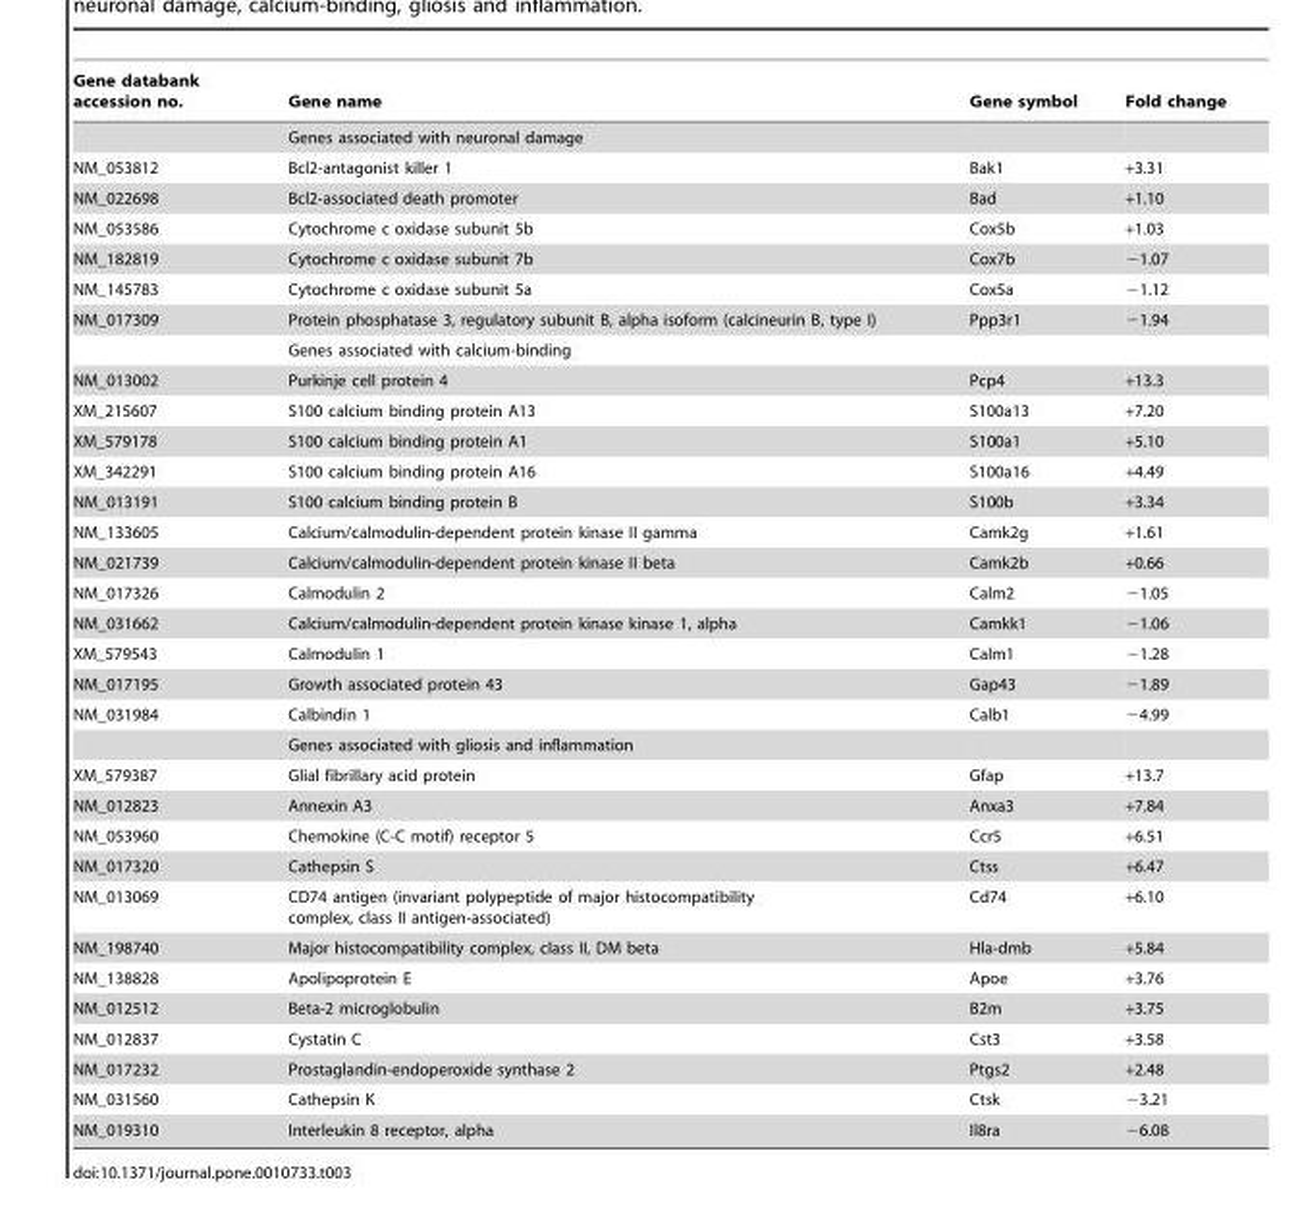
<table><thead><tr><td>Gene databank accession no.</td><td>Gene name</td><td>Gene symbol</td><td>Fold change</td></tr></thead><tbody><tr><td></td><td>Genes associated with neuronal damage</td><td></td><td></td></tr><tr><td>NM_053812</td><td>Bcl2-antagonist killer 1</td><td>Bak1</td><td>+3.31</td></tr><tr><td>NM_022698</td><td>Bcl2-associated death promoter</td><td>Bad</td><td>+1.10</td></tr><tr><td>NM_053586</td><td>Cytochrome c oxidase subunit 5b</td><td>Cox5b</td><td>+1.03</td></tr><tr><td>NM_182819</td><td>Cytochrome c oxidase subunit 7b</td><td>Cox7b</td><td>−1.07</td></tr><tr><td>NM_145783</td><td>Cytochrome c oxidase subunit 5a</td><td>Cox5a</td><td>−1.12</td></tr><tr><td rowspan="2">NM_017309</td><td>Protein phosphatase 3, regulatory subunit B, alpha isoform (calcineurin B, type I)</td><td>Ppp3r1</td><td>−1.94</td></tr><tr><td>Genes associated with calcium-binding</td><td></td><td></td></tr><tr><td>NM_013002</td><td>Purkinje cell protein 4</td><td>Pcp4</td><td>+13.3</td></tr><tr><td>XM_215607</td><td>S100 calcium binding protein A13</td><td>S100a13</td><td>+7.20</td></tr><tr><td>XM_579178</td><td>S100 calcium binding protein A1</td><td>S100a1</td><td>+5.10</td></tr><tr><td>XM_342291</td><td>S100 calcium binding protein A16</td><td>S100a16</td><td>+4.49</td></tr><tr><td>NM_013191</td><td>S100 calcium binding protein B</td><td>S100b</td><td>+3.34</td></tr><tr><td>NM_133605</td><td>Calcium/calmodulin-dependent protein kinase II gamma</td><td>Camk2g</td><td>+1.61</td></tr><tr><td>NM_021739</td><td>Calcium/calmodulin-dependent protein kinase II beta</td><td>Camk2b</td><td>+0.66</td></tr><tr><td>NM_017326</td><td>Calmodulin 2</td><td>Calm2</td><td>−1.05</td></tr><tr><td>NM_031662</td><td>Calcium/calmodulin-dependent protein kinase kinase 1, alpha</td><td>Camkk1</td><td>−1.06</td></tr><tr><td>XM_579543</td><td>Calmodulin 1</td><td>Calm1</td><td>−1.28</td></tr><tr><td>NM_017195</td><td>Growth associated protein 43</td><td>Gap43</td><td>−1.89</td></tr><tr><td rowspan="2">NM_031984</td><td>Calbindin 1</td><td>Calb1</td><td>−4.99</td></tr><tr><td>Genes associated with gliosis and inflammation</td><td></td><td></td></tr><tr><td>XM_579387</td><td>Glial fibrillary acid protein</td><td>Gfap</td><td>+13.7</td></tr><tr><td>NM_012823</td><td>Annexin A3</td><td>Anxa3</td><td>+7.84</td></tr><tr><td>NM_053960</td><td>Chemokine (C-C motif) receptor 5</td><td>Ccr5</td><td>+6.51</td></tr><tr><td>NM_017320</td><td>Cathepsin S</td><td>Ctss</td><td>+6.47</td></tr><tr><td>NM_013069</td><td>CD74 antigen (invariant polypeptide of major histocompatibility complex, class II antigen-associated)</td><td>Cd74</td><td>+6.10</td></tr><tr><td>NM_198740</td><td>Major histocompatibility complex, class II, DM beta</td><td>Hla-dmb</td><td>+5.84</td></tr><tr><td>NM_138828</td><td>Apolipoprotein E</td><td>Apoe</td><td>+3.76</td></tr><tr><td>NM_012512</td><td>Beta-2 microglobulin</td><td>B2m</td><td>+3.75</td></tr><tr><td>NM_012837</td><td>Cystatin C</td><td>Cst3</td><td>+3.58</td></tr><tr><td>NM_017232</td><td>Prostaglandin-endoperoxide synthase 2</td><td>Ptgs2</td><td>+2.48</td></tr><tr><td>NM_031560</td><td>Cathepsin K</td><td>Ctsk</td><td>−3.21</td></tr><tr><td>NM_019310</td><td>Interleukin 8 receptor, alpha</td><td>Il8ra</td><td>−6.08</td></tr></tbody></table>